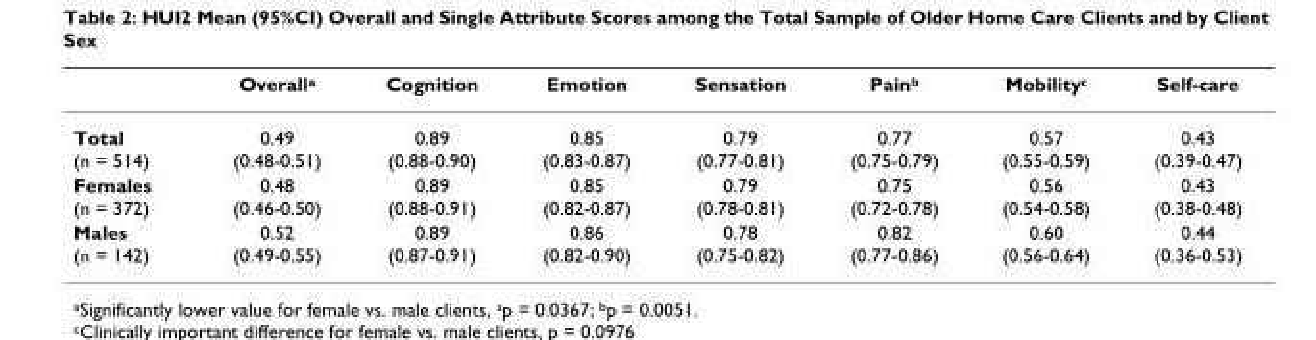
<table><thead><tr><td></td><td>Overall<sup>a</sup></td><td>Cognition</td><td>Emotion</td><td>Sensation</td><td>Pain<sup>b</sup></td><td>Mobility<sup>c</sup></td><td>Self-care</td></tr></thead><tbody><tr><td>Total (n = 514)</td><td>0.49 (0.48-0.51)</td><td>0.89 (0.88-0.90)</td><td>0.85 (0.83-0.87)</td><td>0.79 (0.77-0.81)</td><td>0.77 (0.75-0.79)</td><td>0.57 (0.55-0.59)</td><td>0.43 (0.39-0.47)</td></tr><tr><td>Females (n = 372)</td><td>0.48 (0.46-0.50)</td><td>0.89 (0.88-0.91)</td><td>0.85 (0.82-0.87)</td><td>0.79 (0.78-0.81)</td><td>0.75 (0.72-0.78)</td><td>0.56 (0.54-0.58)</td><td>0.43 (0.38-0.48)</td></tr><tr><td>Males (n = 142)</td><td>0.52 (0.49-0.55)</td><td>0.89 (0.87-0.91)</td><td>0.86 (0.82-0.90)</td><td>0.78 (0.75-0.82)</td><td>0.82 (0.77-0.86)</td><td>0.60 (0.56-0.64)</td><td>0.44 (0.36-0.53)</td></tr></tbody></table>